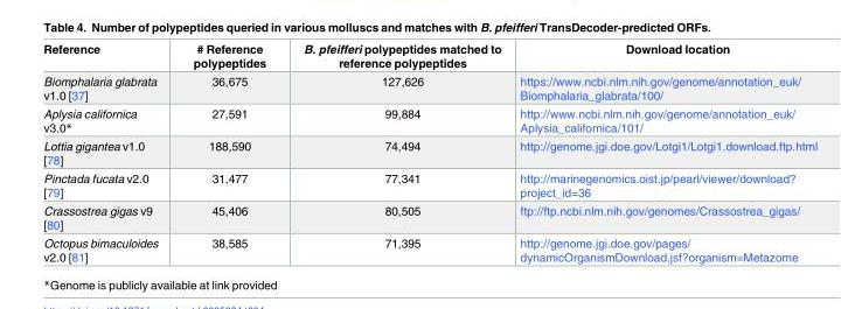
<table><thead><tr><td>Reference</td><td># Reference polypeptides</td><td>B. pfeifferi polypeptides matched to reference polypeptides</td><td>Download location</td></tr></thead><tbody><tr><td>Biomphalaria glabrata v1.0 [37]</td><td>36,675</td><td>127,626</td><td>https://www.ncbi.nlm.nih.gov/genome/annotation_euk/ Biomphalaria_glabrata/100/</td></tr><tr><td>Aplysia californica v3.0*</td><td>27,591</td><td>99,884</td><td>http://www.ncbi.nlm.nih.gov/genome/annotation_euk/ Aplysia_californica/101/</td></tr><tr><td>Lottia gigantea v1.0 [78]</td><td>188,590</td><td>74,494</td><td>http://genome.jgi.doe.gov/Lotgi1/Lotgi1.download.ftp.html</td></tr><tr><td>Pinctada fucata v2.0 [79]</td><td>31,477</td><td>77,341</td><td>http://marinegenomics.oist.jp/pearl/viewer/download? project_id=36</td></tr><tr><td>Crassostrea gigas v9 [80]</td><td>45,406</td><td>80,505</td><td>ftp://ftp.ncbi.nlm.nih.gov/genomes/Crassostrea_gigas/</td></tr><tr><td>Octopus bimaculoides v2.0 [81]</td><td>38,585</td><td>71,395</td><td>http://genome.jgi.doe.gov/pages/ dynamicOrganismDownload.jsf?organism=Metazome</td></tr></tbody></table>